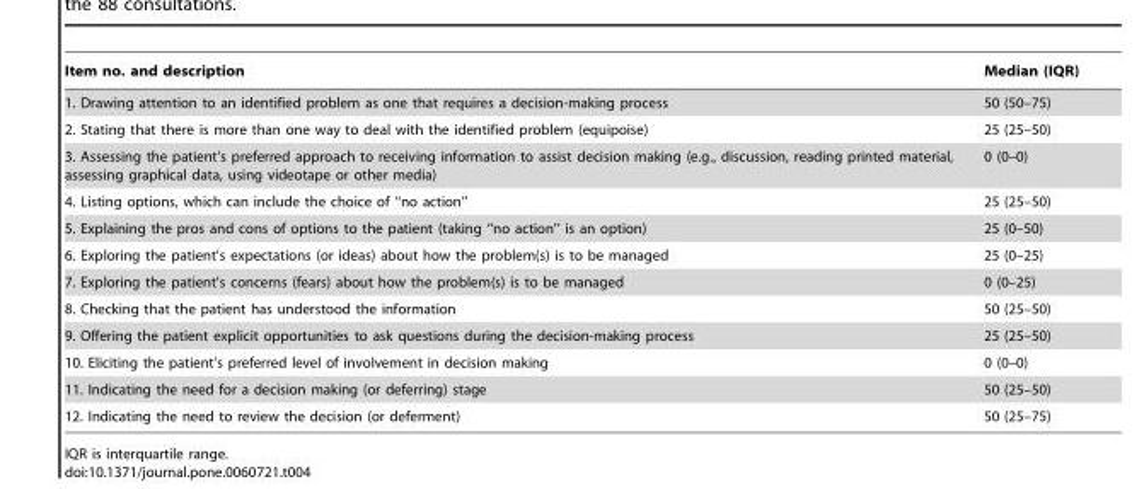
<table><thead><tr><td>Item no. and description</td><td>Median (IQR)</td></tr></thead><tbody><tr><td>1. Drawing attention to an identified problem as one that requires a decision-making process</td><td>50 (50–75)</td></tr><tr><td>2. Stating that there is more than one way to deal with the identified problem (equipoise)</td><td>25 (25–50)</td></tr><tr><td>3. Assessing the patient’s preferred approach to receiving information to assist decision making (e.g., discussion, reading printed material, assessing graphical data, using videotape or other media)</td><td>0 (0–0)</td></tr><tr><td>4. Listing options, which can include the choice of ‘‘no action’’</td><td>25 (25–50)</td></tr><tr><td>5. Explaining the pros and cons of options to the patient (taking ‘‘no action’’ is an option)</td><td>25 (0–50)</td></tr><tr><td>6. Exploring the patient’s expectations (or ideas) about how the problem(s) is to be managed</td><td>25 (0–25)</td></tr><tr><td>7. Exploring the patient’s concerns (fears) about how the problem(s) is to be managed</td><td>0 (0–25)</td></tr><tr><td>8. Checking that the patient has understood the information</td><td>50 (25–50)</td></tr><tr><td>9. Offering the patient explicit opportunities to ask questions during the decision-making process</td><td>25 (25–50)</td></tr><tr><td>10. Eliciting the patient’s preferred level of involvement in decision making</td><td>0 (0–0)</td></tr><tr><td>11. Indicating the need for a decision making (or deferring) stage</td><td>50 (25–50)</td></tr><tr><td>12. Indicating the need to review the decision (or deferment)</td><td>50 (25–75)</td></tr></tbody></table>